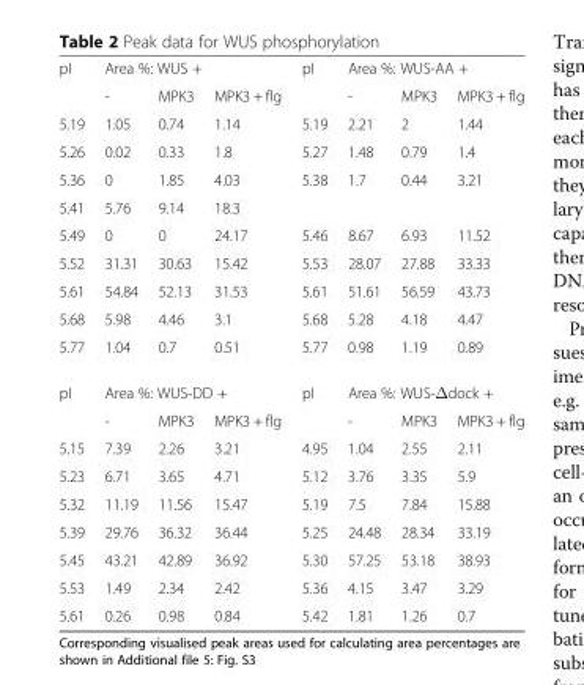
<table><tbody><tr><td rowspan="2">pI</td><td colspan="3">Area %: WUS +</td><td rowspan="2">pI</td><td colspan="3">Area %: WUS-AA +</td></tr><tr><td>-</td><td>MPK3</td><td>MPK3 + flg</td><td>-</td><td>MPK3</td><td>MPK3 + flg</td></tr><tr><td>5.19</td><td>1.05</td><td>0.74</td><td>1.14</td><td>5.19</td><td>2.21</td><td>2</td><td>1.44</td></tr><tr><td>5.26</td><td>0.02</td><td>0.33</td><td>1.8</td><td>5.27</td><td>1.48</td><td>0.79</td><td>1.4</td></tr><tr><td>5.36</td><td>0</td><td>1.85</td><td>4.03</td><td>5.38</td><td>1.7</td><td>0.44</td><td>3.21</td></tr><tr><td>5.41</td><td>5.76</td><td>9.14</td><td>18.3</td><td></td><td></td><td></td><td></td></tr><tr><td>5.49</td><td>0</td><td>0</td><td>24.17</td><td>5.46</td><td>8.67</td><td>6.93</td><td>11.52</td></tr><tr><td>5.52</td><td>31.31</td><td>30.63</td><td>15.42</td><td>5.53</td><td>28.07</td><td>27.88</td><td>33.33</td></tr><tr><td>5.61</td><td>54.84</td><td>52.13</td><td>31.53</td><td>5.61</td><td>51.61</td><td>56.59</td><td>43.73</td></tr><tr><td>5.68</td><td>5.98</td><td>4.46</td><td>3.1</td><td>5.68</td><td>5.28</td><td>4.18</td><td>4.47</td></tr><tr><td>5.77</td><td>1.04</td><td>0.7</td><td>0.51</td><td>5.77</td><td>0.98</td><td>1.19</td><td>0.89</td></tr><tr><td rowspan="2">pI</td><td colspan="3">Area %: WUS-DD +</td><td rowspan="2">pI</td><td colspan="3">Area %: WUS-Δdock +</td></tr><tr><td>-</td><td>MPK3</td><td>MPK3 + flg</td><td>-</td><td>MPK3</td><td>MPK3 + flg</td></tr><tr><td>5.15</td><td>7.39</td><td>2.26</td><td>3.21</td><td>4.95</td><td>1.04</td><td>2.55</td><td>2.11</td></tr><tr><td>5.23</td><td>6.71</td><td>3.65</td><td>4.71</td><td>5.12</td><td>3.76</td><td>3.35</td><td>5.9</td></tr><tr><td>5.32</td><td>11.19</td><td>11.56</td><td>15.47</td><td>5.19</td><td>7.5</td><td>7.84</td><td>15.88</td></tr><tr><td>5.39</td><td>29.76</td><td>36.32</td><td>36.44</td><td>5.25</td><td>24.48</td><td>28.34</td><td>33.19</td></tr><tr><td>5.45</td><td>43.21</td><td>42.89</td><td>36.92</td><td>5.30</td><td>57.25</td><td>53.18</td><td>38.93</td></tr><tr><td>5.53</td><td>1.49</td><td>2.34</td><td>2.42</td><td>5.36</td><td>4.15</td><td>3.47</td><td>3.29</td></tr><tr><td>5.61</td><td>0.26</td><td>0.98</td><td>0.84</td><td>5.42</td><td>1.81</td><td>1.26</td><td>0.7</td></tr></tbody></table>